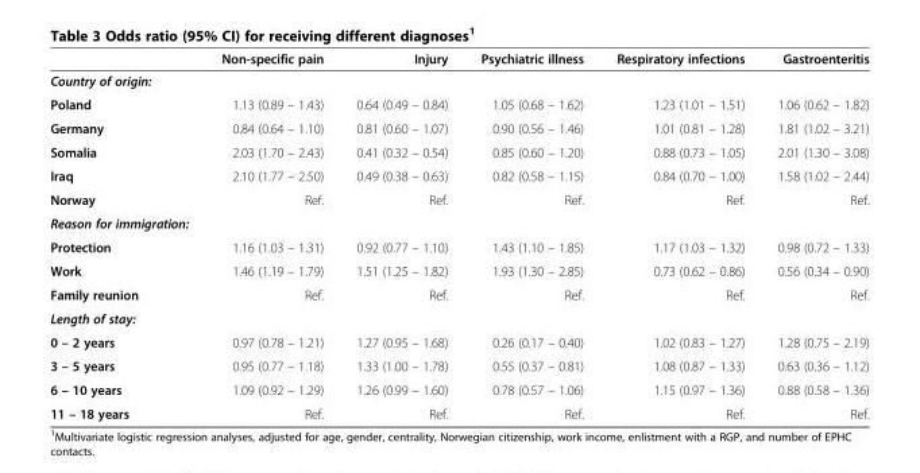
<table><thead><tr><td></td><td>Non-specific pain</td><td>Injury</td><td>Psychiatric illness</td><td>Respiratory infections</td><td>Gastroenteritis</td></tr></thead><tbody><tr><td colspan="6">Country of origin:</td></tr><tr><td>Poland</td><td>1.13 (0.89 – 1.43)</td><td>0.64 (0.49 – 0.84)</td><td>1.05 (0.68 – 1.62)</td><td>1.23 (1.01 – 1.51)</td><td>1.06 (0.62 – 1.82)</td></tr><tr><td>Germany</td><td>0.84 (0.64 – 1.10)</td><td>0.81 (0.60 – 1.07)</td><td>0.90 (0.56 – 1.46)</td><td>1.01 (0.81 – 1.28)</td><td>1.81 (1.02 – 3.21)</td></tr><tr><td>Somalia</td><td>2.03 (1.70 – 2.43)</td><td>0.41 (0.32 – 0.54)</td><td>0.85 (0.60 – 1.20)</td><td>0.88 (0.73 – 1.05)</td><td>2.01 (1.30 – 3.08)</td></tr><tr><td>Iraq</td><td>2.10 (1.77 – 2.50)</td><td>0.49 (0.38 – 0.63)</td><td>0.82 (0.58 – 1.15)</td><td>0.84 (0.70 – 1.00)</td><td>1.58 (1.02 – 2.44)</td></tr><tr><td>Norway</td><td>Ref.</td><td>Ref.</td><td>Ref.</td><td>Ref.</td><td>Ref.</td></tr><tr><td colspan="6">Reason for immigration:</td></tr><tr><td>Protection</td><td>1.16 (1.03 – 1.31)</td><td>0.92 (0.77 – 1.10)</td><td>1.43 (1.10 – 1.85)</td><td>1.17 (1.03 – 1.32)</td><td>0.98 (0.72 – 1.33)</td></tr><tr><td>Work</td><td>1.46 (1.19 – 1.79)</td><td>1.51 (1.25 – 1.82)</td><td>1.93 (1.30 – 2.85)</td><td>0.73 (0.62 – 0.86)</td><td>0.56 (0.34 – 0.90)</td></tr><tr><td>Family reunion</td><td>Ref.</td><td>Ref.</td><td>Ref.</td><td>Ref.</td><td>Ref.</td></tr><tr><td colspan="6">Length of stay:</td></tr><tr><td>0 – 2 years</td><td>0.97 (0.78 – 1.21)</td><td>1.27 (0.95 – 1.68)</td><td>0.26 (0.17 – 0.40)</td><td>1.02 (0.83 – 1.27)</td><td>1.28 (0.75 – 2.19)</td></tr><tr><td>3 – 5 years</td><td>0.95 (0.77 – 1.18)</td><td>1.33 (1.00 – 1.78)</td><td>0.55 (0.37 – 0.81)</td><td>1.08 (0.87 – 1.33)</td><td>0.63 (0.36 – 1.12)</td></tr><tr><td>6 – 10 years</td><td>1.09 (0.92 – 1.29)</td><td>1.26 (0.99 – 1.60)</td><td>0.78 (0.57 – 1.06)</td><td>1.15 (0.97 – 1.36)</td><td>0.88 (0.58 – 1.36)</td></tr><tr><td>11 – 18 years</td><td>Ref.</td><td>Ref.</td><td>Ref.</td><td>Ref.</td><td>Ref.</td></tr></tbody></table>